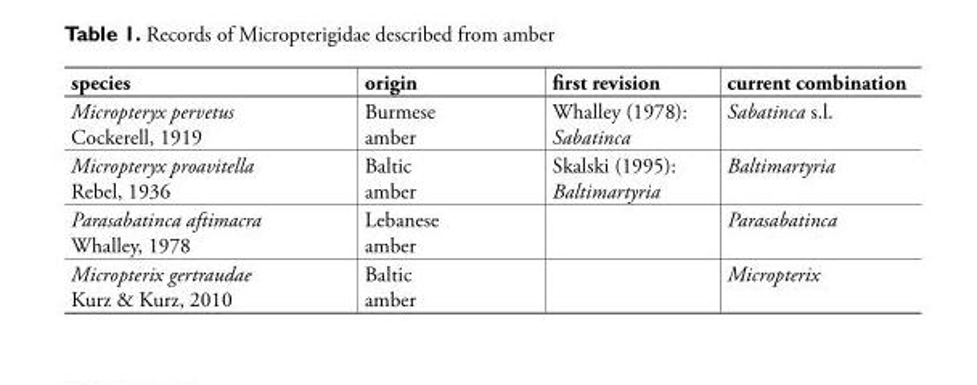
<table><thead><tr><td>species</td><td>origin</td><td>first revision</td><td>current combination</td></tr></thead><tbody><tr><td>Micropteryx pervetus Cockerell, 1919</td><td>Burmese amber</td><td>Whalley (1978): Sabatinca</td><td>Sabatinca s.l.</td></tr><tr><td>Micropteryx proavitella Rebel, 1936</td><td>Baltic amber</td><td>Skalski (1995): Baltimartyria</td><td>Baltimartyria</td></tr><tr><td>Parasabatinca aftimacra Whalley, 1978</td><td>Lebanese amber</td><td></td><td>Parasabatinca</td></tr><tr><td>Micropterix gertraudae Kurz &amp; Kurz, 2010</td><td>Baltic amber</td><td></td><td>Micropterix</td></tr></tbody></table>